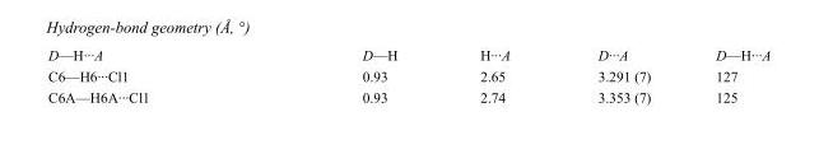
<table><tbody><tr><td>D—H···A</td><td>D—H</td><td>H···A</td><td>D···A</td><td>D—H···A</td></tr><tr><td>C6—H6···Cl1</td><td>0.93</td><td>2.65</td><td>3.291 (7)</td><td>127</td></tr><tr><td>C6A—H6A···Cl1</td><td>0.93</td><td>2.74</td><td>3.353 (7)</td><td>125</td></tr></tbody></table>